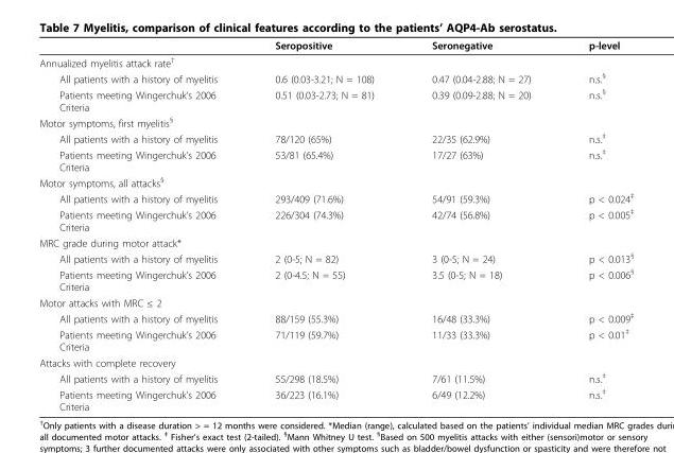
<table><thead><tr><td></td><td>Seropositive</td><td>Seronegative</td><td>p-level</td></tr></thead><tbody><tr><td colspan="4">Annualized myelitis attack rate<sup>†</sup></td></tr><tr><td>All patients with a history of myelitis</td><td>0.6 (0.03-3.21; N = 108)</td><td>0.47 (0.04-2.88; N = 27)</td><td>n.s.<sup>§</sup></td></tr><tr><td>Patients meeting Wingerchuk’s 2006 Criteria</td><td>0.51 (0.03-2.73; N = 81)</td><td>0.39 (0.09-2.88; N = 20)</td><td>n.s.<sup>§</sup></td></tr><tr><td colspan="4">Motor symptoms, first myelitis<sup>§</sup></td></tr><tr><td>All patients with a history of myelitis</td><td>78/120 (65%)</td><td>22/35 (62.9%)</td><td>n.s.<sup>‡</sup></td></tr><tr><td>Patients meeting Wingerchuk’s 2006 Criteria</td><td>53/81 (65.4%)</td><td>17/27 (63%)</td><td>n.s.<sup>‡</sup></td></tr><tr><td colspan="4">Motor symptoms, all attacks<sup>§</sup></td></tr><tr><td>All patients with a history of myelitis</td><td>293/409 (71.6%)</td><td>54/91 (59.3%)</td><td>p &lt; 0.024<sup>‡</sup></td></tr><tr><td>Patients meeting Wingerchuk’s 2006 Criteria</td><td>226/304 (74.3%)</td><td>42/74 (56.8%)</td><td>p &lt; 0.005<sup>‡</sup></td></tr><tr><td colspan="4">MRC grade during motor attack*</td></tr><tr><td>All patients with a history of myelitis</td><td>2 (0-5; N = 82)</td><td>3 (0-5; N = 24)</td><td>p &lt; 0.013<sup>§</sup></td></tr><tr><td>Patients meeting Wingerchuk’s 2006 Criteria</td><td>2 (0-4.5; N = 55)</td><td>3.5 (0-5; N = 18)</td><td>p &lt; 0.006<sup>§</sup></td></tr><tr><td colspan="4">Motor attacks with MRC ≤ 2</td></tr><tr><td>All patients with a history of myelitis</td><td>88/159 (55.3%)</td><td>16/48 (33.3%)</td><td>p &lt; 0.009<sup>‡</sup></td></tr><tr><td>Patients meeting Wingerchuk’s 2006 Criteria</td><td>71/119 (59.7%)</td><td>11/33 (33.3%)</td><td>p &lt; 0.01<sup>‡</sup></td></tr><tr><td colspan="4">Attacks with complete recovery</td></tr><tr><td>All patients with a history of myelitis</td><td>55/298 (18.5%)</td><td>7/61 (11.5%)</td><td>n.s.<sup>‡</sup></td></tr><tr><td>Patients meeting Wingerchuk’s 2006 Criteria</td><td>36/223 (16.1%)</td><td>6/49 (12.2%)</td><td>n.s.<sup>‡</sup></td></tr></tbody></table>